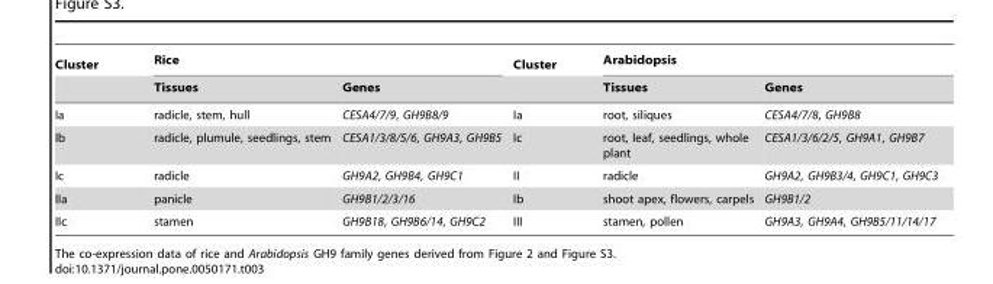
<table><thead><tr><td rowspan="2">Cluster</td><td colspan="2">Rice</td><td rowspan="2">Cluster</td><td colspan="2">Arabidopsis</td></tr><tr><td>Tissues</td><td>Genes</td><td>Tissues</td><td>Genes</td></tr></thead><tbody><tr><td>Ia</td><td>radicle, stem, hull</td><td>CESA4/7/9, GH9B8/9</td><td>Ia</td><td>root, siliques</td><td>CESA4/7/8, GH9B8</td></tr><tr><td>Ib</td><td>radicle, plumule, seedlings, stem</td><td>CESA1/3/8/5/6, GH9A3, GH9B5</td><td>Ic</td><td>root, leaf, seedlings, whole plant</td><td>CESA1/3/6/2/5, GH9A1, GH9B7</td></tr><tr><td>Ic</td><td>radicle</td><td>GH9A2, GH9B4, GH9C1</td><td>II</td><td>radicle</td><td>GH9A2, GH9B3/4, GH9C1, GH9C3</td></tr><tr><td>IIa</td><td>panicle</td><td>GH9B1/2/3/16</td><td>Ib</td><td>shoot apex, flowers, carpels</td><td>GH9B1/2</td></tr><tr><td>IIc</td><td>stamen</td><td>GH9B18, GH9B6/14, GH9C2</td><td>III</td><td>stamen, pollen</td><td>GH9A3, GH9A4, GH9B5/11/14/17</td></tr></tbody></table>